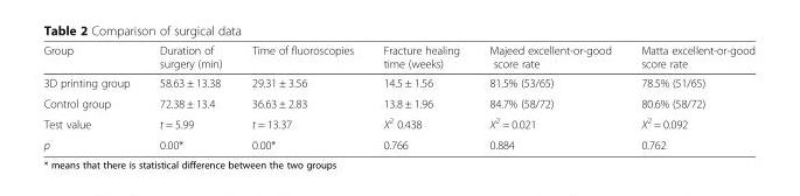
<table><thead><tr><td>Group</td><td>Duration of surgery (min)</td><td>Time of fluoroscopies</td><td>Fracture healing time (weeks)</td><td>Majeed excellent-or-good score rate</td><td>Matta excellent-or-good score rate</td></tr></thead><tbody><tr><td>3D printing group</td><td>58.63 ± 13.38</td><td>29.31 ± 3.56</td><td>14.5 ± 1.56</td><td>81.5% (53/65)</td><td>78.5% (51/65)</td></tr><tr><td>Control group</td><td>72.38 ± 13.4</td><td>36.63 ± 2.83</td><td>13.8 ± 1.96</td><td>84.7% (58/72)</td><td>80.6% (58/72)</td></tr><tr><td>Test value</td><td>t = 5.99</td><td>t = 13.37</td><td>Χ<sup>2</sup> 0.438</td><td>Χ<sup>2</sup> = 0.021</td><td>Χ<sup>2</sup> = 0.092</td></tr><tr><td>p</td><td>0.00*</td><td>0.00*</td><td>0.766</td><td>0.884</td><td>0.762</td></tr></tbody></table>